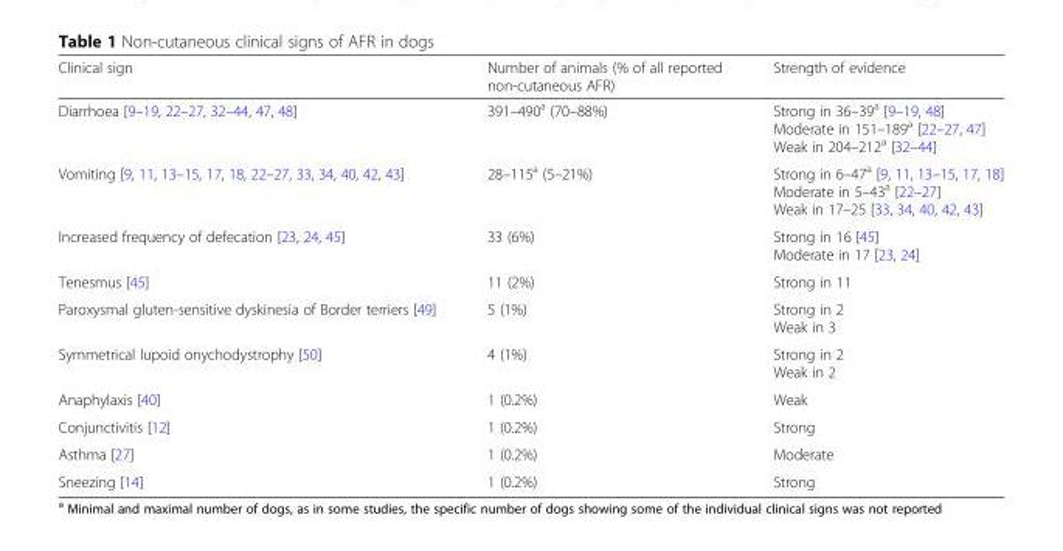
<table><thead><tr><td>Clinical sign</td><td>Number of animals (% of all reported non-cutaneous AFR)</td><td>Strength of evidence</td></tr></thead><tbody><tr><td>Diarrhoea [9–19, 22–27, 32–44, 47, 48]</td><td>391–490<sup>a</sup> (70–88%)</td><td>Strong in 36–39<sup>a</sup> [9–19, 48] Moderate in 151–189<sup>a</sup> [22–27, 47] Weak in 204–212<sup>a</sup> [32–44]</td></tr><tr><td>Vomiting [9, 11, 13–15, 17, 18, 22–27, 33, 34, 40, 42, 43]</td><td>28–115<sup>a</sup> (5–21%)</td><td>Strong in 6–47<sup>a</sup> [9, 11, 13–15, 17, 18] Moderate in 5–43<sup>a</sup> [22–27] Weak in 17–25 [33, 34, 40, 42, 43]</td></tr><tr><td>Increased frequency of defecation [23, 24, 45]</td><td>33 (6%)</td><td>Strong in 16 [45] Moderate in 17 [23, 24]</td></tr><tr><td>Tenesmus [45]</td><td>11 (2%)</td><td>Strong in 11</td></tr><tr><td>Paroxysmal gluten-sensitive dyskinesia of Border terriers [49]</td><td>5 (1%)</td><td>Strong in 2 Weak in 3</td></tr><tr><td>Symmetrical lupoid onychodystrophy [50]</td><td>4 (1%)</td><td>Strong in 2 Weak in 2</td></tr><tr><td>Anaphylaxis [40]</td><td>1 (0.2%)</td><td>Weak</td></tr><tr><td>Conjunctivitis [12]</td><td>1 (0.2%)</td><td>Strong</td></tr><tr><td>Asthma [27]</td><td>1 (0.2%)</td><td>Moderate</td></tr><tr><td>Sneezing [14]</td><td>1 (0.2%)</td><td>Strong</td></tr></tbody></table>